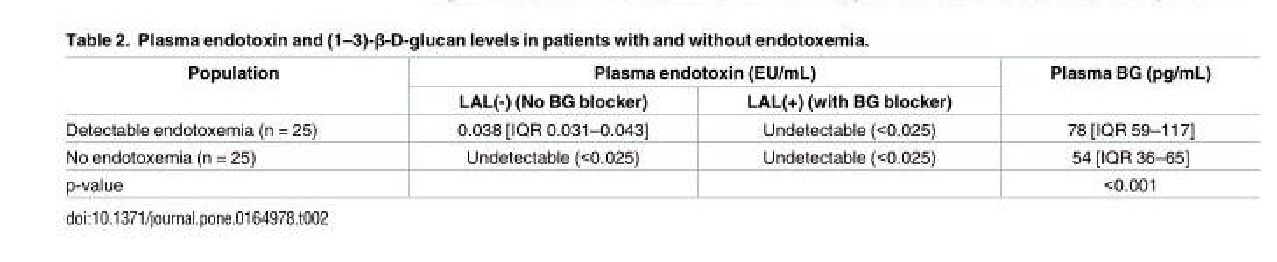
<table><thead><tr><td rowspan="2">Population</td><td colspan="2">Plasma endotoxin (EU/mL)</td><td rowspan="2">Plasma BG (pg/mL)</td></tr><tr><td>LAL(-) (No BG blocker)</td><td>LAL(+) (with BG blocker)</td></tr></thead><tbody><tr><td>Detectable endotoxemia (n = 25)</td><td>0.038 [IQR 0.031–0.043]</td><td>Undetectable (&lt;0.025)</td><td>78 [IQR 59–117]</td></tr><tr><td>No endotoxemia (n = 25)</td><td>Undetectable (&lt;0.025)</td><td>Undetectable (&lt;0.025)</td><td>54 [IQR 36–65]</td></tr><tr><td>p-value</td><td></td><td></td><td>&lt;0.001</td></tr></tbody></table>